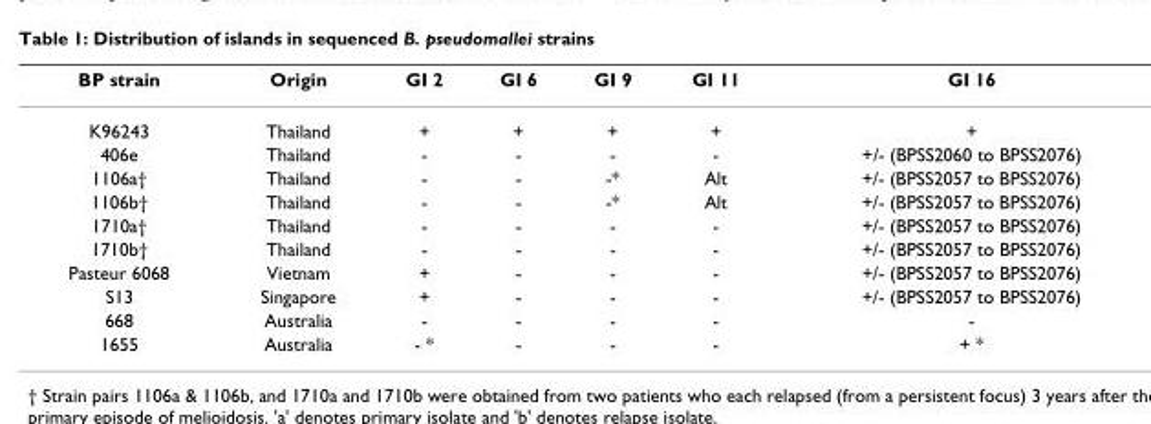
<table><thead><tr><td>BP strain</td><td>Origin</td><td>GI 2</td><td>GI 6</td><td>GI 9</td><td>GI 11</td><td>GI 16</td></tr></thead><tbody><tr><td>K96243</td><td>Thailand</td><td>+</td><td>+</td><td>+</td><td>+</td><td>+</td></tr><tr><td>406e</td><td>Thailand</td><td>-</td><td>-</td><td>-</td><td>-</td><td>+/- (BPSS2060 to BPSS2076)</td></tr><tr><td>1106a†</td><td>Thailand</td><td>-</td><td>-</td><td>-*</td><td>Alt</td><td>+/- (BPSS2057 to BPSS2076)</td></tr><tr><td>1106b†</td><td>Thailand</td><td>-</td><td>-</td><td>-*</td><td>Alt</td><td>+/- (BPSS2057 to BPSS2076)</td></tr><tr><td>1710a†</td><td>Thailand</td><td>-</td><td>-</td><td>-</td><td>-</td><td>+/- (BPSS2057 to BPSS2076)</td></tr><tr><td>1710b†</td><td>Thailand</td><td>-</td><td>-</td><td>-</td><td>-</td><td>+/- (BPSS2057 to BPSS2076)</td></tr><tr><td>Pasteur 6068</td><td>Vietnam</td><td>+</td><td>-</td><td>-</td><td>-</td><td>+/- (BPSS2057 to BPSS2076)</td></tr><tr><td>S13</td><td>Singapore</td><td>+</td><td>-</td><td>-</td><td>-</td><td>+/- (BPSS2057 to BPSS2076)</td></tr><tr><td>668</td><td>Australia</td><td>-</td><td>-</td><td>-</td><td>-</td><td>-</td></tr><tr><td>1655</td><td>Australia</td><td>- *</td><td>-</td><td>-</td><td>-</td><td>+ *</td></tr></tbody></table>